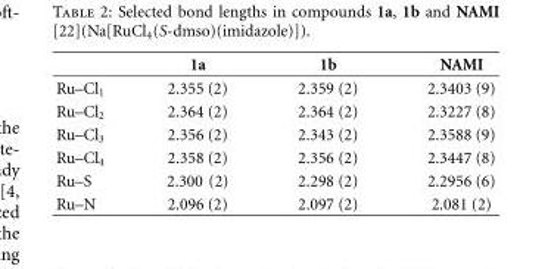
<table><thead><tr><td></td><td>1a</td><td>1b</td><td>NAMI</td></tr></thead><tbody><tr><td>Ru–Cl<sub>1</sub></td><td>2.355 (2)</td><td>2.359 (2)</td><td>2.3403 (9)</td></tr><tr><td>Ru–Cl<sub>2</sub></td><td>2.364 (2)</td><td>2.364 (2)</td><td>2.3227 (8)</td></tr><tr><td>Ru–Cl<sub>3</sub></td><td>2.356 (2)</td><td>2.343 (2)</td><td>2.3588 (9)</td></tr><tr><td>Ru–Cl<sub>4</sub></td><td>2.358 (2)</td><td>2.356 (2)</td><td>2.3447 (8)</td></tr><tr><td>Ru–S</td><td>2.300 (2)</td><td>2.298 (2)</td><td>2.2956 (6)</td></tr><tr><td>Ru–N</td><td>2.096 (2)</td><td>2.097 (2)</td><td>2.081 (2)</td></tr></tbody></table>